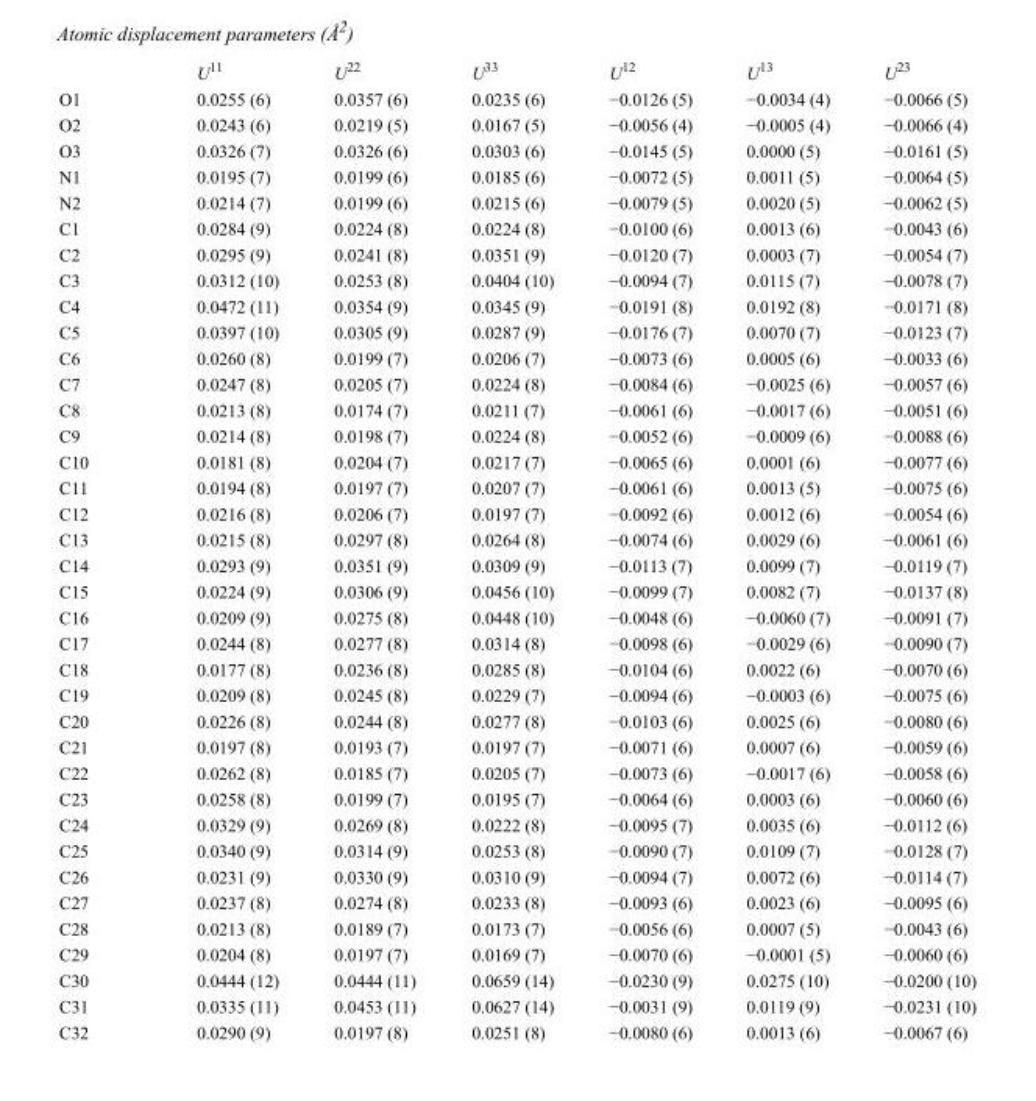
<table><thead><tr><td></td><td>U<sup>11</sup></td><td>U<sup>22</sup></td><td>U<sup>33</sup></td><td>U<sup>12</sup></td><td>U<sup>13</sup></td><td>U<sup>23</sup></td></tr></thead><tbody><tr><td>O1</td><td>0.0255 (6)</td><td>0.0357 (6)</td><td>0.0235 (6)</td><td>−0.0126 (5)</td><td>−0.0034 (4)</td><td>−0.0066 (5)</td></tr><tr><td>O2</td><td>0.0243 (6)</td><td>0.0219 (5)</td><td>0.0167 (5)</td><td>−0.0056 (4)</td><td>−0.0005 (4)</td><td>−0.0066 (4)</td></tr><tr><td>O3</td><td>0.0326 (7)</td><td>0.0326 (6)</td><td>0.0303 (6)</td><td>−0.0145 (5)</td><td>0.0000 (5)</td><td>−0.0161 (5)</td></tr><tr><td>N1</td><td>0.0195 (7)</td><td>0.0199 (6)</td><td>0.0185 (6)</td><td>−0.0072 (5)</td><td>0.0011 (5)</td><td>−0.0064 (5)</td></tr><tr><td>N2</td><td>0.0214 (7)</td><td>0.0199 (6)</td><td>0.0215 (6)</td><td>−0.0079 (5)</td><td>0.0020 (5)</td><td>−0.0062 (5)</td></tr><tr><td>C1</td><td>0.0284 (9)</td><td>0.0224 (8)</td><td>0.0224 (8)</td><td>−0.0100 (6)</td><td>0.0013 (6)</td><td>−0.0043 (6)</td></tr><tr><td>C2</td><td>0.0295 (9)</td><td>0.0241 (8)</td><td>0.0351 (9)</td><td>−0.0120 (7)</td><td>0.0003 (7)</td><td>−0.0054 (7)</td></tr><tr><td>C3</td><td>0.0312 (10)</td><td>0.0253 (8)</td><td>0.0404 (10)</td><td>−0.0094 (7)</td><td>0.0115 (7)</td><td>−0.0078 (7)</td></tr><tr><td>C4</td><td>0.0472 (11)</td><td>0.0354 (9)</td><td>0.0345 (9)</td><td>−0.0191 (8)</td><td>0.0192 (8)</td><td>−0.0171 (8)</td></tr><tr><td>C5</td><td>0.0397 (10)</td><td>0.0305 (9)</td><td>0.0287 (9)</td><td>−0.0176 (7)</td><td>0.0070 (7)</td><td>−0.0123 (7)</td></tr><tr><td>C6</td><td>0.0260 (8)</td><td>0.0199 (7)</td><td>0.0206 (7)</td><td>−0.0073 (6)</td><td>0.0005 (6)</td><td>−0.0033 (6)</td></tr><tr><td>C7</td><td>0.0247 (8)</td><td>0.0205 (7)</td><td>0.0224 (8)</td><td>−0.0084 (6)</td><td>−0.0025 (6)</td><td>−0.0057 (6)</td></tr><tr><td>C8</td><td>0.0213 (8)</td><td>0.0174 (7)</td><td>0.0211 (7)</td><td>−0.0061 (6)</td><td>−0.0017 (6)</td><td>−0.0051 (6)</td></tr><tr><td>C9</td><td>0.0214 (8)</td><td>0.0198 (7)</td><td>0.0224 (8)</td><td>−0.0052 (6)</td><td>−0.0009 (6)</td><td>−0.0088 (6)</td></tr><tr><td>C10</td><td>0.0181 (8)</td><td>0.0204 (7)</td><td>0.0217 (7)</td><td>−0.0065 (6)</td><td>0.0001 (6)</td><td>−0.0077 (6)</td></tr><tr><td>C11</td><td>0.0194 (8)</td><td>0.0197 (7)</td><td>0.0207 (7)</td><td>−0.0061 (6)</td><td>0.0013 (5)</td><td>−0.0075 (6)</td></tr><tr><td>C12</td><td>0.0216 (8)</td><td>0.0206 (7)</td><td>0.0197 (7)</td><td>−0.0092 (6)</td><td>0.0012 (6)</td><td>−0.0054 (6)</td></tr><tr><td>C13</td><td>0.0215 (8)</td><td>0.0297 (8)</td><td>0.0264 (8)</td><td>−0.0074 (6)</td><td>0.0029 (6)</td><td>−0.0061 (6)</td></tr><tr><td>C14</td><td>0.0293 (9)</td><td>0.0351 (9)</td><td>0.0309 (9)</td><td>−0.0113 (7)</td><td>0.0099 (7)</td><td>−0.0119 (7)</td></tr><tr><td>C15</td><td>0.0224 (9)</td><td>0.0306 (9)</td><td>0.0456 (10)</td><td>−0.0099 (7)</td><td>0.0082 (7)</td><td>−0.0137 (8)</td></tr><tr><td>C16</td><td>0.0209 (9)</td><td>0.0275 (8)</td><td>0.0448 (10)</td><td>−0.0048 (6)</td><td>−0.0060 (7)</td><td>−0.0091 (7)</td></tr><tr><td>C17</td><td>0.0244 (8)</td><td>0.0277 (8)</td><td>0.0314 (8)</td><td>−0.0098 (6)</td><td>−0.0029 (6)</td><td>−0.0090 (7)</td></tr><tr><td>C18</td><td>0.0177 (8)</td><td>0.0236 (8)</td><td>0.0285 (8)</td><td>−0.0104 (6)</td><td>0.0022 (6)</td><td>−0.0070 (6)</td></tr><tr><td>C19</td><td>0.0209 (8)</td><td>0.0245 (8)</td><td>0.0229 (7)</td><td>−0.0094 (6)</td><td>−0.0003 (6)</td><td>−0.0075 (6)</td></tr><tr><td>C20</td><td>0.0226 (8)</td><td>0.0244 (8)</td><td>0.0277 (8)</td><td>−0.0103 (6)</td><td>0.0025 (6)</td><td>−0.0080 (6)</td></tr><tr><td>C21</td><td>0.0197 (8)</td><td>0.0193 (7)</td><td>0.0197 (7)</td><td>−0.0071 (6)</td><td>0.0007 (6)</td><td>−0.0059 (6)</td></tr><tr><td>C22</td><td>0.0262 (8)</td><td>0.0185 (7)</td><td>0.0205 (7)</td><td>−0.0073 (6)</td><td>−0.0017 (6)</td><td>−0.0058 (6)</td></tr><tr><td>C23</td><td>0.0258 (8)</td><td>0.0199 (7)</td><td>0.0195 (7)</td><td>−0.0064 (6)</td><td>0.0003 (6)</td><td>−0.0060 (6)</td></tr><tr><td>C24</td><td>0.0329 (9)</td><td>0.0269 (8)</td><td>0.0222 (8)</td><td>−0.0095 (7)</td><td>0.0035 (6)</td><td>−0.0112 (6)</td></tr><tr><td>C25</td><td>0.0340 (9)</td><td>0.0314 (9)</td><td>0.0253 (8)</td><td>−0.0090 (7)</td><td>0.0109 (7)</td><td>−0.0128 (7)</td></tr><tr><td>C26</td><td>0.0231 (9)</td><td>0.0330 (9)</td><td>0.0310 (9)</td><td>−0.0094 (7)</td><td>0.0072 (6)</td><td>−0.0114 (7)</td></tr><tr><td>C27</td><td>0.0237 (8)</td><td>0.0274 (8)</td><td>0.0233 (8)</td><td>−0.0093 (6)</td><td>0.0023 (6)</td><td>−0.0095 (6)</td></tr><tr><td>C28</td><td>0.0213 (8)</td><td>0.0189 (7)</td><td>0.0173 (7)</td><td>−0.0056 (6)</td><td>0.0007 (5)</td><td>−0.0043 (6)</td></tr><tr><td>C29</td><td>0.0204 (8)</td><td>0.0197 (7)</td><td>0.0169 (7)</td><td>−0.0070 (6)</td><td>−0.0001 (5)</td><td>−0.0060 (6)</td></tr><tr><td>C30</td><td>0.0444 (12)</td><td>0.0444 (11)</td><td>0.0659 (14)</td><td>−0.0230 (9)</td><td>0.0275 (10)</td><td>−0.0200 (10)</td></tr><tr><td>C31</td><td>0.0335 (11)</td><td>0.0453 (11)</td><td>0.0627 (14)</td><td>−0.0031 (9)</td><td>0.0119 (9)</td><td>−0.0231 (10)</td></tr><tr><td>C32</td><td>0.0290 (9)</td><td>0.0197 (8)</td><td>0.0251 (8)</td><td>−0.0080 (6)</td><td>0.0013 (6)</td><td>−0.0067 (6)</td></tr></tbody></table>